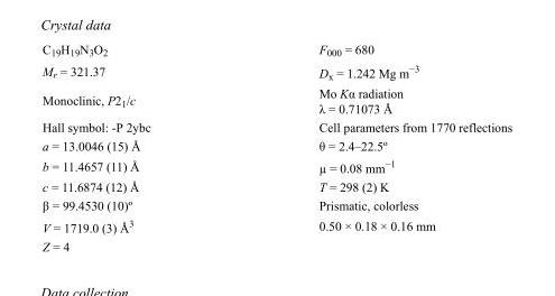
<table><tbody><tr><td>C<sub>19</sub>H<sub>19</sub>N<sub>3</sub>O<sub>2</sub></td><td>F<sub>000</sub> = 680</td></tr><tr><td>M<sub>r</sub> = 321.37</td><td>D<sub>x</sub> = 1.242 Mg m<sup>−3</sup></td></tr><tr><td>Monoclinic, P2<sub>1</sub>/c</td><td>Mo Kα radiation λ = 0.71073 Å</td></tr><tr><td>Hall symbol: -P 2ybc</td><td>Cell parameters from 1770 reflections</td></tr><tr><td>a = 13.0046 (15) Å</td><td>θ = 2.4–22.5º</td></tr><tr><td>b = 11.4657 (11) Å</td><td>µ = 0.08 mm<sup>−1</sup></td></tr><tr><td>c = 11.6874 (12) Å</td><td>T = 298 (2) K</td></tr><tr><td>β = 99.4530 (10)º</td><td>Prismatic, colorless</td></tr><tr><td>V = 1719.0 (3) Å<sup>3</sup></td><td>0.50 × 0.18 × 0.16 mm</td></tr><tr><td>Z = 4</td><td></td></tr></tbody></table>